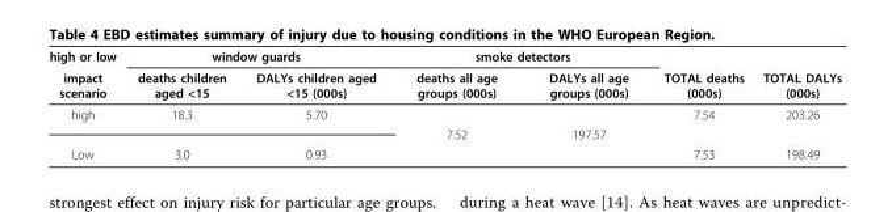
<table><thead><tr><td rowspan="2">high or low impact scenario</td><td colspan="2">window guards</td><td colspan="2">smoke detectors</td><td rowspan="2">TOTAL deaths (000s)</td><td rowspan="2">TOTAL DALYs (000s)</td></tr><tr><td>deaths children aged &lt;15</td><td>DALYs children aged &lt;15 (000s)</td><td>deaths all age groups (000s)</td><td>DALYs all age groups (000s)</td></tr></thead><tbody><tr><td>high</td><td>18.3</td><td>5.70</td><td></td><td></td><td>7.54</td><td>203.26</td></tr><tr><td colspan="3"></td><td>7.52</td><td>197.57</td><td colspan="2"></td></tr><tr><td>Low</td><td>3.0</td><td>0.93</td><td></td><td></td><td>7.53</td><td>198.49</td></tr></tbody></table>